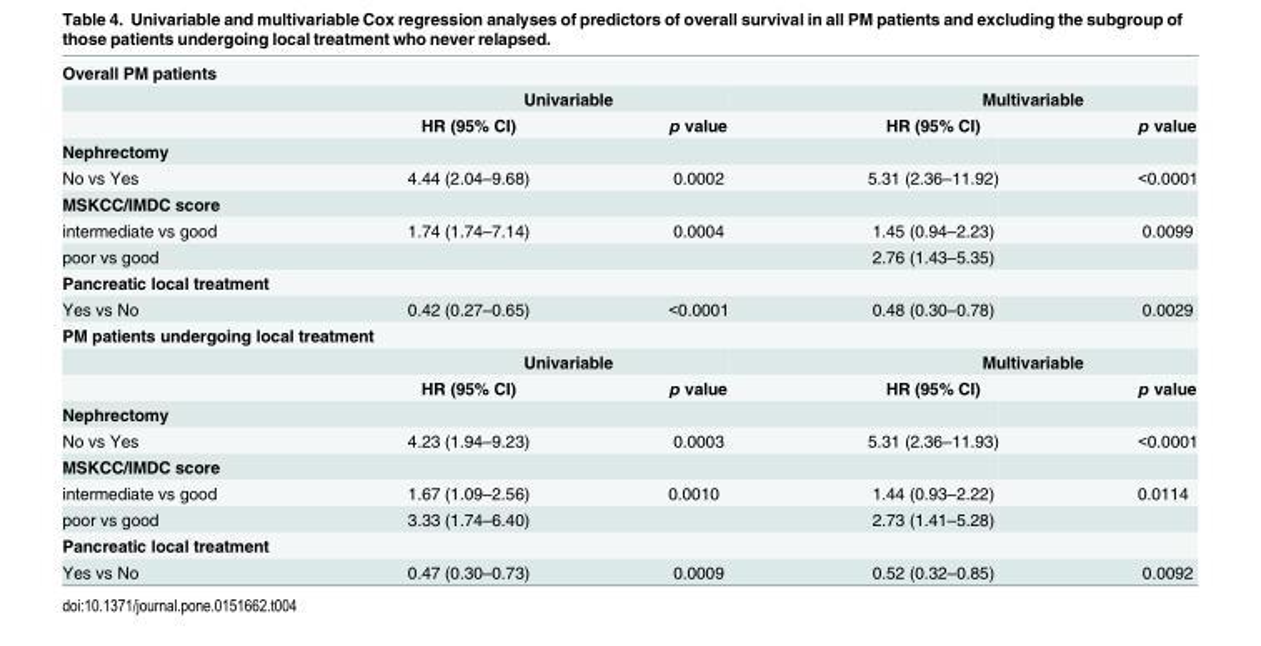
<table><tbody><tr><td colspan="5">Overall PM patients</td></tr><tr><td></td><td colspan="2">Univariable</td><td colspan="2">Multivariable</td></tr><tr><td></td><td>HR (95% CI)</td><td>p value</td><td>HR (95% CI)</td><td>p value</td></tr><tr><td colspan="5">Nephrectomy</td></tr><tr><td>No vs Yes</td><td>4.44 (2.04–9.68)</td><td>0.0002</td><td>5.31 (2.36–11.92)</td><td>&lt;0.0001</td></tr><tr><td colspan="5">MSKCC/IMDC score</td></tr><tr><td>intermediate vs good</td><td>1.74 (1.74–7.14)</td><td>0.0004</td><td>1.45 (0.94–2.23)</td><td>0.0099</td></tr><tr><td>poor vs good</td><td></td><td></td><td>2.76 (1.43–5.35)</td><td></td></tr><tr><td colspan="5">Pancreatic local treatment</td></tr><tr><td>Yes vs No</td><td>0.42 (0.27–0.65)</td><td>&lt;0.0001</td><td>0.48 (0.30–0.78)</td><td>0.0029</td></tr><tr><td colspan="5">PM patients undergoing local treatment</td></tr><tr><td></td><td colspan="2">Univariable</td><td colspan="2">Multivariable</td></tr><tr><td></td><td>HR (95% CI)</td><td>p value</td><td>HR (95% CI)</td><td>p value</td></tr><tr><td colspan="5">Nephrectomy</td></tr><tr><td>No vs Yes</td><td>4.23 (1.94–9.23)</td><td>0.0003</td><td>5.31 (2.36–11.93)</td><td>&lt;0.0001</td></tr><tr><td colspan="5">MSKCC/IMDC score</td></tr><tr><td>intermediate vs good</td><td>1.67 (1.09–2.56)</td><td>0.0010</td><td>1.44 (0.93–2.22)</td><td>0.0114</td></tr><tr><td>poor vs good</td><td>3.33 (1.74–6.40)</td><td></td><td>2.73 (1.41–5.28)</td><td></td></tr><tr><td colspan="5">Pancreatic local treatment</td></tr><tr><td>Yes vs No</td><td>0.47 (0.30–0.73)</td><td>0.0009</td><td>0.52 (0.32–0.85)</td><td>0.0092</td></tr></tbody></table>